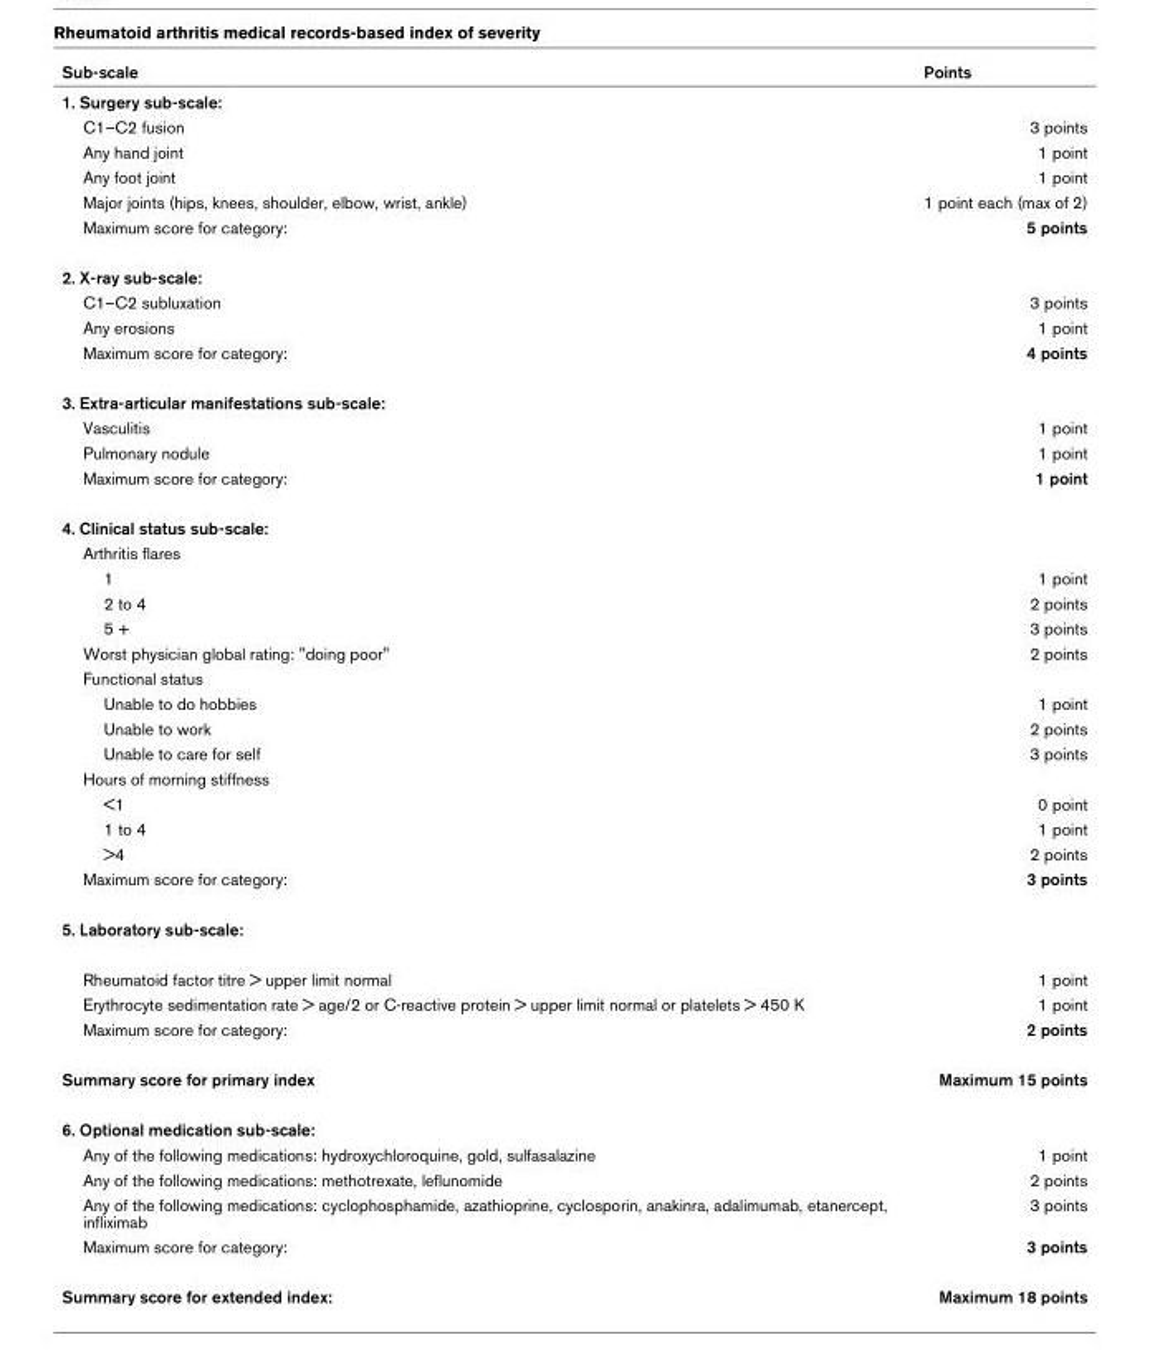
<table><thead><tr><td>Sub-scale</td><td>Points</td></tr></thead><tbody><tr><td colspan="2">1. Surgery sub-scale:</td></tr><tr><td>C1–C2 fusion</td><td>3 points</td></tr><tr><td>Any hand joint</td><td>1 point</td></tr><tr><td>Any foot joint</td><td>1 point</td></tr><tr><td>Major joints (hips, knees, shoulder, elbow, wrist, ankle)</td><td>1 point each (max of 2)</td></tr><tr><td>Maximum score for category:</td><td>5 points</td></tr><tr><td colspan="2">2. X-ray sub-scale:</td></tr><tr><td>C1–C2 subluxation</td><td>3 points</td></tr><tr><td>Any erosions</td><td>1 point</td></tr><tr><td>Maximum score for category:</td><td>4 points</td></tr><tr><td colspan="2">3. Extra-articular manifestations sub-scale:</td></tr><tr><td>Vasculitis</td><td>1 point</td></tr><tr><td>Pulmonary nodule</td><td>1 point</td></tr><tr><td>Maximum score for category:</td><td>1 point</td></tr><tr><td colspan="2">4. Clinical status sub-scale:</td></tr><tr><td colspan="2">Arthritis flares</td></tr><tr><td>1</td><td>1 point</td></tr><tr><td>2 to 4</td><td>2 points</td></tr><tr><td>5 +</td><td>3 points</td></tr><tr><td>Worst physician global rating: &quot;doing poor&quot;</td><td>2 points</td></tr><tr><td colspan="2">Functional status</td></tr><tr><td>Unable to do hobbies</td><td>1 point</td></tr><tr><td>Unable to work</td><td>2 points</td></tr><tr><td>Unable to care for self</td><td>3 points</td></tr><tr><td colspan="2">Hours of morning stiffness</td></tr><tr><td>&lt;1</td><td>0 point</td></tr><tr><td>1 to 4</td><td>1 point</td></tr><tr><td>&gt;4</td><td>2 points</td></tr><tr><td>Maximum score for category:</td><td>3 points</td></tr><tr><td colspan="2">5. Laboratory sub-scale:</td></tr><tr><td>Rheumatoid factor titre &gt; upper limit normal</td><td>1 point</td></tr><tr><td>Erythrocyte sedimentation rate &gt; age/2 or C-reactive protein &gt; upper limit normal or platelets &gt; 450 K</td><td>1 point</td></tr><tr><td>Maximum score for category:</td><td>2 points</td></tr><tr><td>Summary score for primary index</td><td>Maximum 15 points</td></tr><tr><td colspan="2">6. Optional medication sub-scale:</td></tr><tr><td>Any of the following medications: hydroxychloroquine, gold, sulfasalazine</td><td>1 point</td></tr><tr><td>Any of the following medications: methotrexate, leflunomide</td><td>2 points</td></tr><tr><td>Any of the following medications: cyclophosphamide, azathioprine, cyclosporin, anakinra, adalimumab, etanercept, infliximab</td><td>3 points</td></tr><tr><td>Maximum score for category:</td><td>3 points</td></tr><tr><td>Summary score for extended index:</td><td>Maximum 18 points</td></tr></tbody></table>